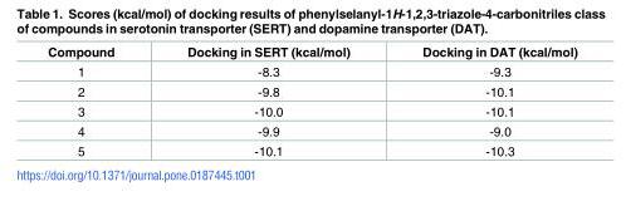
<table><thead><tr><td>Compound</td><td>Docking in SERT (kcal/mol)</td><td>Docking in DAT (kcal/mol)</td></tr></thead><tbody><tr><td>1</td><td>-8.3</td><td>-9.3</td></tr><tr><td>2</td><td>-9.8</td><td>-10.1</td></tr><tr><td>3</td><td>-10.0</td><td>-10.1</td></tr><tr><td>4</td><td>-9.9</td><td>-9.0</td></tr><tr><td>5</td><td>-10.1</td><td>-10.3</td></tr></tbody></table>